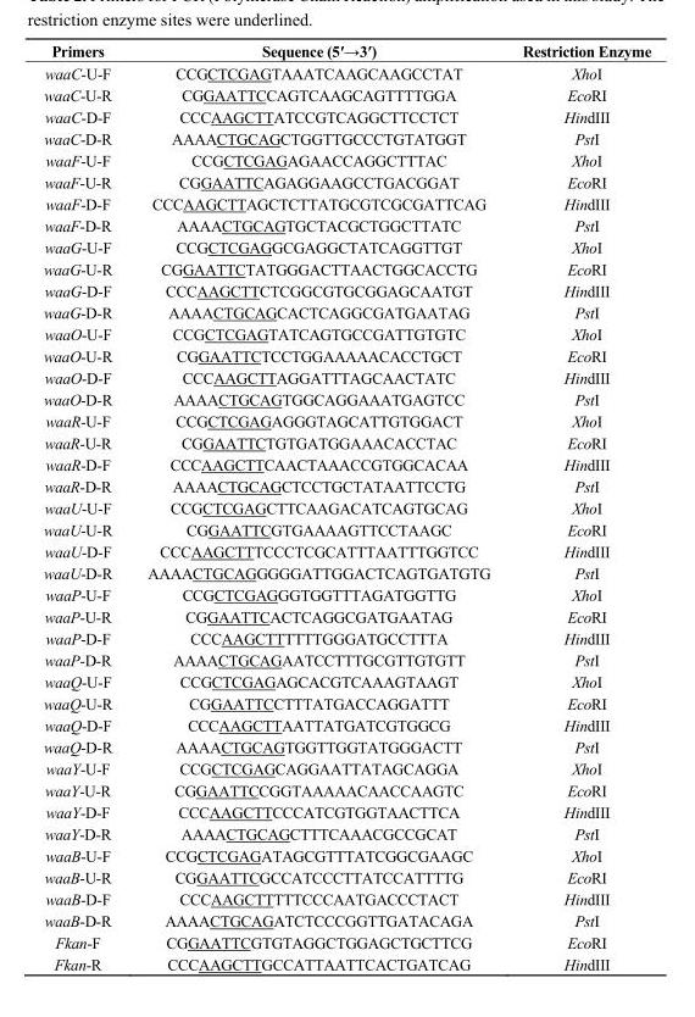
<table><thead><tr><td>Primers</td><td>Sequence (5′→3′)</td><td>Restriction Enzyme</td></tr></thead><tbody><tr><td>waaC-U-F</td><td>CCGCTCGAGTAAATCAAGCAAGCCTAT</td><td>XhoI</td></tr><tr><td>waaC-U-R</td><td>CGGAATTCCAGTCAAGCAGTTTTGGA</td><td>EcoRI</td></tr><tr><td>waaC-D-F</td><td>CCCAAGCTTATCCGTCAGGCTTCCTCT</td><td>HindIII</td></tr><tr><td>waaC-D-R</td><td>AAAACTGCAGCTGGTTGCCCTGTATGGT</td><td>PstI</td></tr><tr><td>waaF-U-F</td><td>CCGCTCGAGAGAACCAGGCTTTAC</td><td>XhoI</td></tr><tr><td>waaF-U-R</td><td>CGGAATTCAGAGGAAGCCTGACGGAT</td><td>EcoRI</td></tr><tr><td>waaF-D-F</td><td>CCCAAGCTTAGCTCTTATGCGTCGCGATTCAG</td><td>HindIII</td></tr><tr><td>waaF-D-R</td><td>AAAACTGCAGTGCTACGCTGGCTTATC</td><td>PstI</td></tr><tr><td>waaG-U-F</td><td>CCGCTCGAGGCGAGGCTATCAGGTTGT</td><td>XhoI</td></tr><tr><td>waaG-U-R</td><td>CGGAATTCTATGGGACTTAACTGGCACCTG</td><td>EcoRI</td></tr><tr><td>waaG-D-F</td><td>CCCAAGCTTCTCGGCGTGCGGAGCAATGT</td><td>HindIII</td></tr><tr><td>waaG-D-R</td><td>AAAACTGCAGCACTCAGGCGATGAATAG</td><td>PstI</td></tr><tr><td>waaO-U-F</td><td>CCGCTCGAGTATCAGTGCCGATTGTGTC</td><td>XhoI</td></tr><tr><td>waaO-U-R</td><td>CGGAATTCTCCTGGAAAAACACCTGCT</td><td>EcoRI</td></tr><tr><td>waaO-D-F</td><td>CCCAAGCTTAGGATTTAGCAACTATC</td><td>HindIII</td></tr><tr><td>waaO-D-R</td><td>AAAACTGCAGTGGCAGGAAATGAGTCC</td><td>PstI</td></tr><tr><td>waaR-U-F</td><td>CCGCTCGAGAGGGTAGCATTGTGGACT</td><td>XhoI</td></tr><tr><td>waaR-U-R</td><td>CGGAATTCTGTGATGGAAACACCTAC</td><td>EcoRI</td></tr><tr><td>waaR-D-F</td><td>CCCAAGCTTCAACTAAACCGTGGCACAA</td><td>HindIII</td></tr><tr><td>waaR-D-R</td><td>AAAACTGCAGCTCCTGCTATAATTCCTG</td><td>PstI</td></tr><tr><td>waaU-U-F</td><td>CCGCTCGAGCTTCAAGACATCAGTGCAG</td><td>XhoI</td></tr><tr><td>waaU-U-R</td><td>CGGAATTCGTGAAAAGTTCCTAAGC</td><td>EcoRI</td></tr><tr><td>waaU-D-F</td><td>CCCAAGCTTTCCCTCGCATTTAATTTGGTCC</td><td>HindIII</td></tr><tr><td>waaU-D-R</td><td>AAAACTGCAGGGGGATTGGACTCAGTGATGTG</td><td>PstI</td></tr><tr><td>waaP-U-F</td><td>CCGCTCGAGGGTGGTTTAGATGGTTG</td><td>XhoI</td></tr><tr><td>waaP-U-R</td><td>CGGAATTCACTCAGGCGATGAATAG</td><td>EcoRI</td></tr><tr><td>waaP-D-F</td><td>CCCAAGCTTTTTTGGGATGCCTTTA</td><td>HindIII</td></tr><tr><td>waaP-D-R</td><td>AAAACTGCAGAATCCTTTGCGTTGTGTT</td><td>PstI</td></tr><tr><td>waaQ-U-F</td><td>CCGCTCGAGAGCACGTCAAAGTAAGT</td><td>XhoI</td></tr><tr><td>waaQ-U-R</td><td>CGGAATTCCTTTATGACCAGGATTT</td><td>EcoRI</td></tr><tr><td>waaQ-D-F</td><td>CCCAAGCTTAATTATGATCGTGGCG</td><td>HindIII</td></tr><tr><td>waaQ-D-R</td><td>AAAACTGCAGTGGTTGGTATGGGACTT</td><td>PstI</td></tr><tr><td>waaY-U-F</td><td>CCGCTCGAGCAGGAATTATAGCAGGA</td><td>XhoI</td></tr><tr><td>waaY-U-R</td><td>CGGAATTCCGGTAAAAACAACCAAGTC</td><td>EcoRI</td></tr><tr><td>waaY-D-F</td><td>CCCAAGCTTCCCATCGTGGTAACTTCA</td><td>HindIII</td></tr><tr><td>waaY-D-R</td><td>AAAACTGCAGCTTTCAAACGCCGCAT</td><td>PstI</td></tr><tr><td>waaB-U-F</td><td>CCGCTCGAGATAGCGTTTATCGGCGAAGC</td><td>XhoI</td></tr><tr><td>waaB-U-R</td><td>CGGAATTCGCCATCCCTTATCCATTTTG</td><td>EcoRI</td></tr><tr><td>waaB-D-F</td><td>CCCAAGCTTTTTCCCAATGACCCTACT</td><td>HindIII</td></tr><tr><td>waaB-D-R</td><td>AAAACTGCAGATCTCCCGGTTGATACAGA</td><td>PstI</td></tr><tr><td>Fkan-F</td><td>CGGAATTCGTGTAGGCTGGAGCTGCTTCG</td><td>EcoRI</td></tr><tr><td>Fkan-R</td><td>CCCAAGCTTGCCATTAATTCACTGATCAG</td><td>HindIII</td></tr></tbody></table>